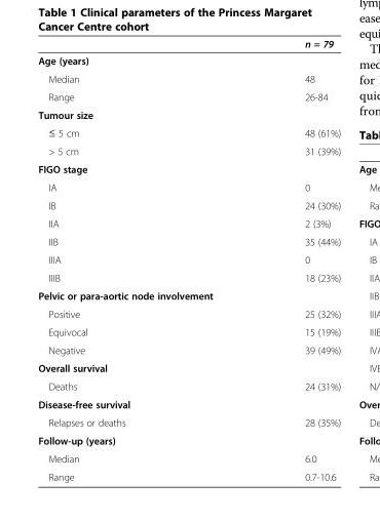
<table><thead><tr><td></td><td>n = 79</td></tr></thead><tbody><tr><td colspan="2">Age (years)</td></tr><tr><td>Median</td><td>48</td></tr><tr><td>Range</td><td>26-84</td></tr><tr><td colspan="2">Tumour size</td></tr><tr><td>≤ 5 cm</td><td>48 (61%)</td></tr><tr><td>&gt; 5 cm</td><td>31 (39%)</td></tr><tr><td colspan="2">FIGO stage</td></tr><tr><td>IA</td><td>0</td></tr><tr><td>IB</td><td>24 (30%)</td></tr><tr><td>IIA</td><td>2 (3%)</td></tr><tr><td>IIB</td><td>35 (44%)</td></tr><tr><td>IIIA</td><td>0</td></tr><tr><td>IIIB</td><td>18 (23%)</td></tr><tr><td colspan="2">Pelvic or para-aortic node involvement</td></tr><tr><td>Positive</td><td>25 (32%)</td></tr><tr><td>Equivocal</td><td>15 (19%)</td></tr><tr><td>Negative</td><td>39 (49%)</td></tr><tr><td colspan="2">Overall survival</td></tr><tr><td>Deaths</td><td>24 (31%)</td></tr><tr><td colspan="2">Disease-free survival</td></tr><tr><td>Relapses or deaths</td><td>28 (35%)</td></tr><tr><td colspan="2">Follow-up (years)</td></tr><tr><td>Median</td><td>6.0</td></tr><tr><td>Range</td><td>0.7-10.6</td></tr></tbody></table>